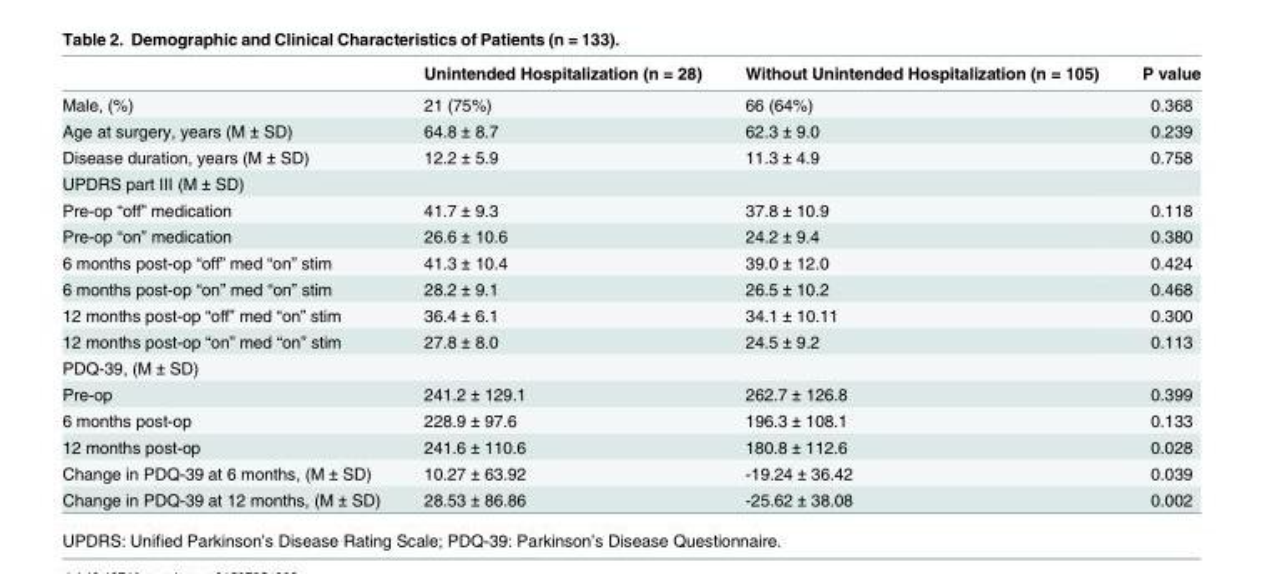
<table><thead><tr><td></td><td>Unintended Hospitalization (n = 28)</td><td>Without Unintended Hospitalization (n = 105)</td><td>P value</td></tr></thead><tbody><tr><td>Male, (%)</td><td>21 (75%)</td><td>66 (64%)</td><td>0.368</td></tr><tr><td>Age at surgery, years (M ± SD)</td><td>64.8 ± 8.7</td><td>62.3 ± 9.0</td><td>0.239</td></tr><tr><td>Disease duration, years (M ± SD)</td><td>12.2 ± 5.9</td><td>11.3 ± 4.9</td><td>0.758</td></tr><tr><td colspan="4">UPDRS part III (M ± SD)</td></tr><tr><td>Pre-op “off” medication</td><td>41.7 ± 9.3</td><td>37.8 ± 10.9</td><td>0.118</td></tr><tr><td>Pre-op “on” medication</td><td>26.6 ± 10.6</td><td>24.2 ± 9.4</td><td>0.380</td></tr><tr><td>6 months post-op “off” med “on” stim</td><td>41.3 ± 10.4</td><td>39.0 ± 12.0</td><td>0.424</td></tr><tr><td>6 months post-op “on” med “on” stim</td><td>28.2 ± 9.1</td><td>26.5 ± 10.2</td><td>0.468</td></tr><tr><td>12 months post-op “off” med “on” stim</td><td>36.4 ± 6.1</td><td>34.1 ± 10.11</td><td>0.300</td></tr><tr><td>12 months post-op “on” med “on” stim</td><td>27.8 ± 8.0</td><td>24.5 ± 9.2</td><td>0.113</td></tr><tr><td colspan="4">PDQ-39, (M ± SD)</td></tr><tr><td>Pre-op</td><td>241.2 ± 129.1</td><td>262.7 ± 126.8</td><td>0.399</td></tr><tr><td>6 months post-op</td><td>228.9 ± 97.6</td><td>196.3 ± 108.1</td><td>0.133</td></tr><tr><td>12 months post-op</td><td>241.6 ± 110.6</td><td>180.8 ± 112.6</td><td>0.028</td></tr><tr><td>Change in PDQ-39 at 6 months, (M ± SD)</td><td>10.27 ± 63.92</td><td>-19.24 ± 36.42</td><td>0.039</td></tr><tr><td>Change in PDQ-39 at 12 months, (M ± SD)</td><td>28.53 ± 86.86</td><td>-25.62 ± 38.08</td><td>0.002</td></tr></tbody></table>